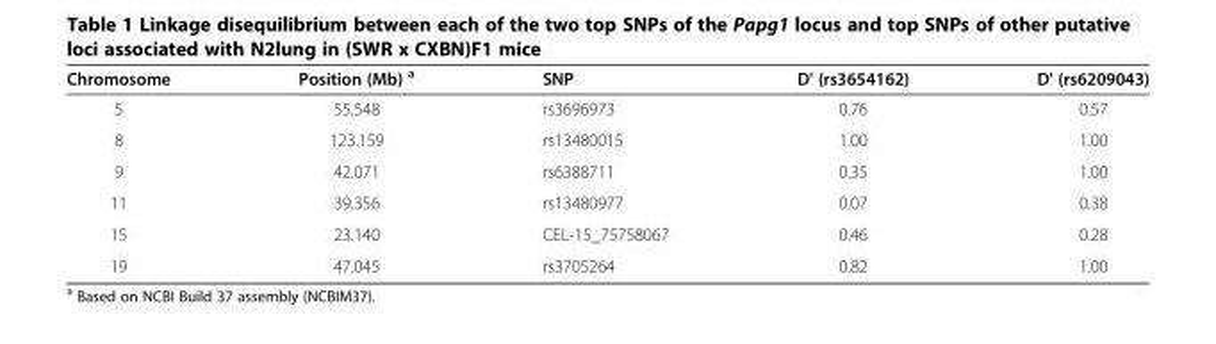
<table><thead><tr><td>Chromosome</td><td>Position (Mb) <sup>a</sup></td><td>SNP</td><td>D&#x27; (rs3654162)</td><td>D&#x27; (rs6209043)</td></tr></thead><tbody><tr><td>5</td><td>55.548</td><td>rs3696973</td><td>0.76</td><td>0.57</td></tr><tr><td>8</td><td>123.159</td><td>rs13480015</td><td>1.00</td><td>1.00</td></tr><tr><td>9</td><td>42.071</td><td>rs6388711</td><td>0.35</td><td>1.00</td></tr><tr><td>11</td><td>39.356</td><td>rs13480977</td><td>0.07</td><td>0.38</td></tr><tr><td>15</td><td>23.140</td><td>CEL-15_75758067</td><td>0.46</td><td>0.28</td></tr><tr><td>19</td><td>47.045</td><td>rs3705264</td><td>0.82</td><td>1.00</td></tr></tbody></table>